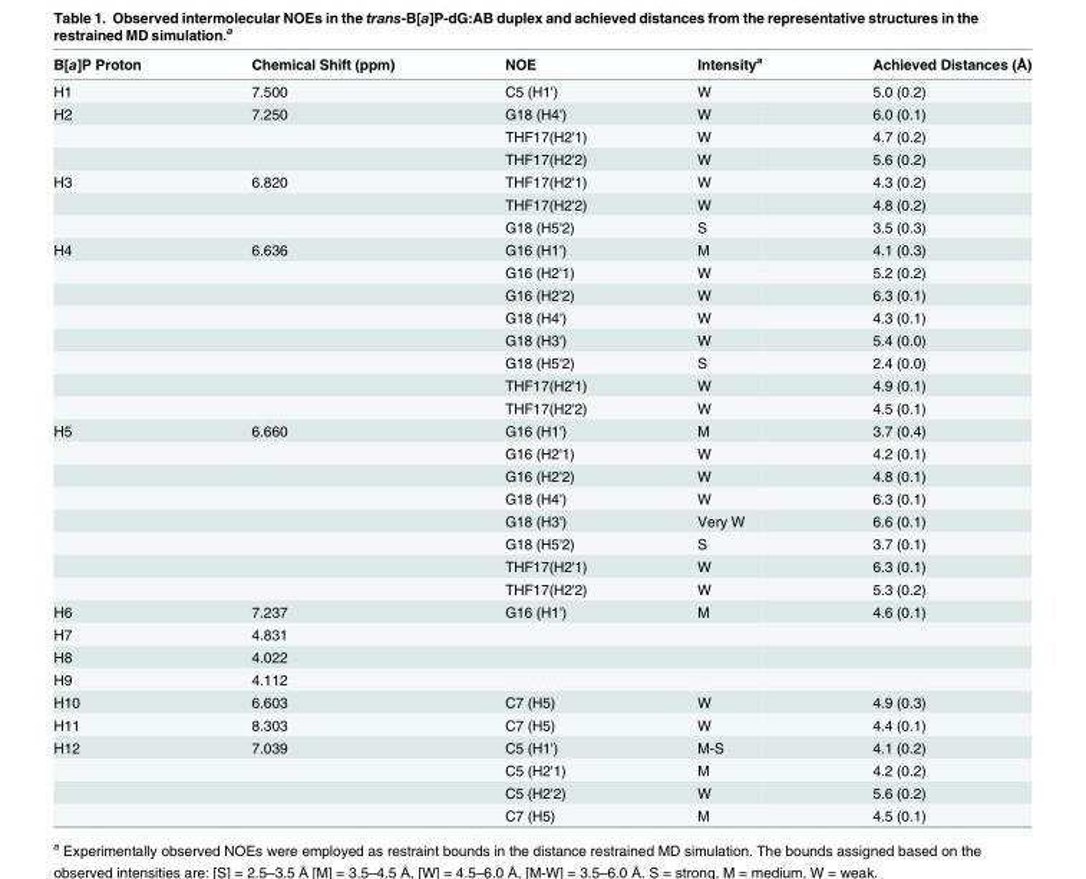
<table><thead><tr><td>B[a]P Proton</td><td>Chemical Shift (ppm)</td><td>NOE</td><td>Intensity<sup>a</sup></td><td>Achieved Distances (Å)</td></tr></thead><tbody><tr><td>H1</td><td>7.500</td><td>C5 (H1&#x27;)</td><td>W</td><td>5.0 (0.2)</td></tr><tr><td rowspan="3">H2</td><td>7.250</td><td>G18 (H4&#x27;)</td><td>W</td><td>6.0 (0.1)</td></tr><tr><td></td><td>THF17(H2&#x27;1)</td><td>W</td><td>4.7 (0.2)</td></tr><tr><td></td><td>THF17(H2&#x27;2)</td><td>W</td><td>5.6 (0.2)</td></tr><tr><td rowspan="3">H3</td><td>6.820</td><td>THF17(H2&#x27;1)</td><td>W</td><td>4.3 (0.2)</td></tr><tr><td></td><td>THF17(H2&#x27;2)</td><td>W</td><td>4.8 (0.2)</td></tr><tr><td></td><td>G18 (H5&#x27;2)</td><td>S</td><td>3.5 (0.3)</td></tr><tr><td rowspan="8">H4</td><td>6.636</td><td>G16 (H1&#x27;)</td><td>M</td><td>4.1 (0.3)</td></tr><tr><td></td><td>G16 (H2&#x27;1)</td><td>W</td><td>5.2 (0.2)</td></tr><tr><td></td><td>G16 (H2&#x27;2)</td><td>W</td><td>6.3 (0.1)</td></tr><tr><td></td><td>G18 (H4&#x27;)</td><td>W</td><td>4.3 (0.1)</td></tr><tr><td></td><td>G18 (H3&#x27;)</td><td>W</td><td>5.4 (0.0)</td></tr><tr><td></td><td>G18 (H5&#x27;2)</td><td>S</td><td>2.4 (0.0)</td></tr><tr><td></td><td>THF17(H2&#x27;1)</td><td>W</td><td>4.9 (0.1)</td></tr><tr><td></td><td>THF17(H2&#x27;2)</td><td>W</td><td>4.5 (0.1)</td></tr><tr><td rowspan="8">H5</td><td>6.660</td><td>G16 (H1&#x27;)</td><td>M</td><td>3.7 (0.4)</td></tr><tr><td></td><td>G16 (H2&#x27;1)</td><td>W</td><td>4.2 (0.1)</td></tr><tr><td></td><td>G16 (H2&#x27;2)</td><td>W</td><td>4.8 (0.1)</td></tr><tr><td></td><td>G18 (H4&#x27;)</td><td>W</td><td>6.3 (0.1)</td></tr><tr><td></td><td>G18 (H3&#x27;)</td><td>Very W</td><td>6.6 (0.1)</td></tr><tr><td></td><td>G18 (H5&#x27;2)</td><td>S</td><td>3.7 (0.1)</td></tr><tr><td></td><td>THF17(H2&#x27;1)</td><td>W</td><td>6.3 (0.1)</td></tr><tr><td></td><td>THF17(H2&#x27;2)</td><td>W</td><td>5.3 (0.2)</td></tr><tr><td>H6</td><td>7.237</td><td>G16 (H1&#x27;)</td><td>M</td><td>4.6 (0.1)</td></tr><tr><td>H7</td><td>4.831</td><td></td><td></td><td></td></tr><tr><td>H8</td><td>4.022</td><td></td><td></td><td></td></tr><tr><td>H9</td><td>4.112</td><td></td><td></td><td></td></tr><tr><td>H10</td><td>6.603</td><td>C7 (H5)</td><td>W</td><td>4.9 (0.3)</td></tr><tr><td>H11</td><td>8.303</td><td>C7 (H5)</td><td>W</td><td>4.4 (0.1)</td></tr><tr><td rowspan="4">H12</td><td>7.039</td><td>C5 (H1&#x27;)</td><td>M-S</td><td>4.1 (0.2)</td></tr><tr><td></td><td>C5 (H2&#x27;1)</td><td>M</td><td>4.2 (0.2)</td></tr><tr><td></td><td>C5 (H2&#x27;2)</td><td>W</td><td>5.6 (0.2)</td></tr><tr><td></td><td>C7 (H5)</td><td>M</td><td>4.5 (0.1)</td></tr></tbody></table>